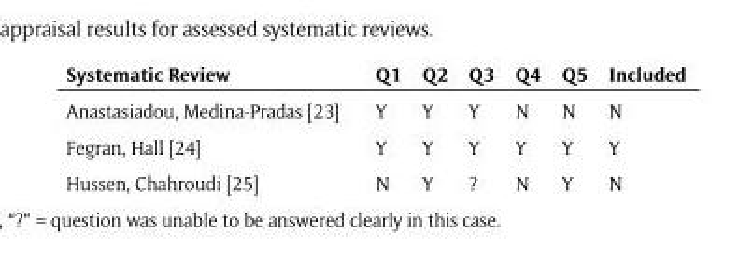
<table><thead><tr><td>Systematic Review</td><td>Q1</td><td>Q2</td><td>Q3</td><td>Q4</td><td>Q5</td><td>Included</td></tr></thead><tbody><tr><td>Anastasiadou, Medina-Pradas [23]</td><td>Y</td><td>Y</td><td>Y</td><td>N</td><td>N</td><td>N</td></tr><tr><td>Fegran, Hall [24]</td><td>Y</td><td>Y</td><td>Y</td><td>Y</td><td>Y</td><td>Y</td></tr><tr><td>Hussen, Chahroudi [25]</td><td>N</td><td>Y</td><td>?</td><td>N</td><td>Y</td><td>N</td></tr></tbody></table>